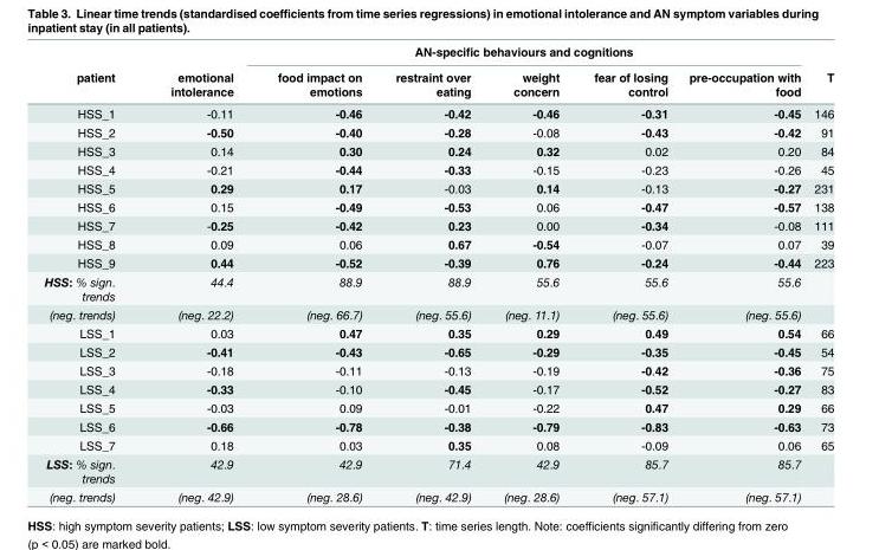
<table><thead><tr><td rowspan="2">patient</td><td rowspan="2">emotional intolerance</td><td colspan="5">AN-specific behaviours and cognitions</td><td rowspan="2">T</td></tr><tr><td>food impact on emotions</td><td>restraint over eating</td><td>weight concern</td><td>fear of losing control</td><td>pre-occupation with food</td></tr></thead><tbody><tr><td>HSS_1</td><td>-0.11</td><td>-0.46</td><td>-0.42</td><td>-0.46</td><td>-0.31</td><td>-0.45</td><td>146</td></tr><tr><td>HSS_2</td><td>-0.50</td><td>-0.40</td><td>-0.28</td><td>-0.08</td><td>-0.43</td><td>-0.42</td><td>91</td></tr><tr><td>HSS_3</td><td>0.14</td><td>0.30</td><td>0.24</td><td>0.32</td><td>0.02</td><td>0.20</td><td>84</td></tr><tr><td>HSS_4</td><td>-0.21</td><td>-0.44</td><td>-0.33</td><td>-0.15</td><td>-0.23</td><td>-0.26</td><td>45</td></tr><tr><td>HSS_5</td><td>0.29</td><td>0.17</td><td>-0.03</td><td>0.14</td><td>-0.13</td><td>-0.27</td><td>231</td></tr><tr><td>HSS_6</td><td>0.15</td><td>-0.49</td><td>-0.53</td><td>0.06</td><td>-0.47</td><td>-0.57</td><td>138</td></tr><tr><td>HSS_7</td><td>-0.25</td><td>-0.42</td><td>0.23</td><td>0.00</td><td>-0.34</td><td>-0.08</td><td>111</td></tr><tr><td>HSS_8</td><td>0.09</td><td>0.06</td><td>0.67</td><td>-0.54</td><td>-0.07</td><td>0.07</td><td>39</td></tr><tr><td>HSS_9</td><td>0.44</td><td>-0.52</td><td>-0.39</td><td>0.76</td><td>-0.24</td><td>-0.44</td><td>223</td></tr><tr><td>HSS: % sign. trends</td><td>44.4</td><td>88.9</td><td>88.9</td><td>55.6</td><td>55.6</td><td>55.6</td><td></td></tr><tr><td>(neg. trends)</td><td>(neg. 22.2)</td><td>(neg. 66.7)</td><td>(neg. 55.6)</td><td>(neg. 11.1)</td><td>(neg. 55.6)</td><td>(neg. 55.6)</td><td></td></tr><tr><td>LSS_1</td><td>0.03</td><td>0.47</td><td>0.35</td><td>0.29</td><td>0.49</td><td>0.54</td><td>66</td></tr><tr><td>LSS_2</td><td>-0.41</td><td>-0.43</td><td>-0.65</td><td>-0.29</td><td>-0.35</td><td>-0.45</td><td>54</td></tr><tr><td>LSS_3</td><td>-0.18</td><td>-0.11</td><td>-0.13</td><td>-0.19</td><td>-0.42</td><td>-0.36</td><td>75</td></tr><tr><td>LSS_4</td><td>-0.33</td><td>-0.10</td><td>-0.45</td><td>-0.17</td><td>-0.52</td><td>-0.27</td><td>83</td></tr><tr><td>LSS_5</td><td>-0.03</td><td>0.09</td><td>-0.01</td><td>-0.22</td><td>0.47</td><td>0.29</td><td>66</td></tr><tr><td>LSS_6</td><td>-0.66</td><td>-0.78</td><td>-0.38</td><td>-0.79</td><td>-0.83</td><td>-0.63</td><td>73</td></tr><tr><td>LSS_7</td><td>0.18</td><td>0.03</td><td>0.35</td><td>0.08</td><td>-0.09</td><td>0.06</td><td>65</td></tr><tr><td>LSS: % sign. trends</td><td>42.9</td><td>42.9</td><td>71.4</td><td>42.9</td><td>85.7</td><td>85.7</td><td></td></tr><tr><td>(neg. trends)</td><td>(neg. 42.9)</td><td>(neg. 28.6)</td><td>(neg. 42.9)</td><td>(neg. 28.6)</td><td>(neg. 57.1)</td><td>(neg. 57.1)</td><td></td></tr></tbody></table>